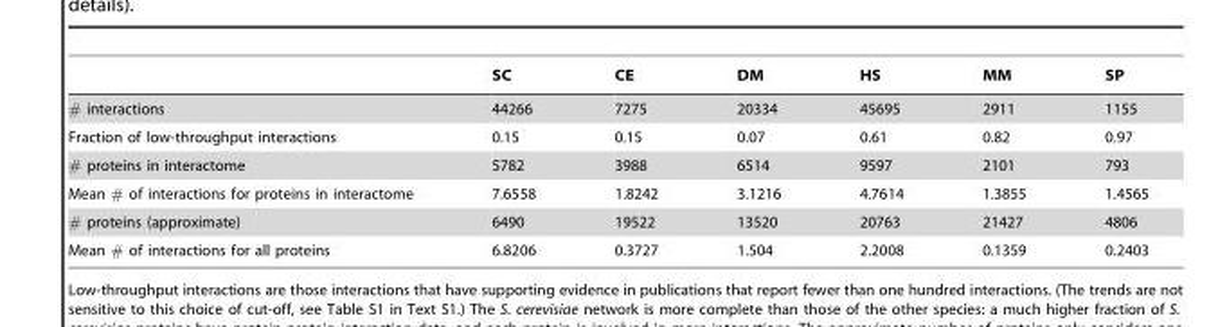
<table><thead><tr><td></td><td>SC</td><td>CE</td><td>DM</td><td>HS</td><td>MM</td><td>SP</td></tr></thead><tbody><tr><td># interactions</td><td>44266</td><td>7275</td><td>20334</td><td>45695</td><td>2911</td><td>1155</td></tr><tr><td>Fraction of low-throughput interactions</td><td>0.15</td><td>0.15</td><td>0.07</td><td>0.61</td><td>0.82</td><td>0.97</td></tr><tr><td># proteins in interactome</td><td>5782</td><td>3988</td><td>6514</td><td>9597</td><td>2101</td><td>793</td></tr><tr><td>Mean # of interactions for proteins in interactome</td><td>7.6558</td><td>1.8242</td><td>3.1216</td><td>4.7614</td><td>1.3855</td><td>1.4565</td></tr><tr><td># proteins (approximate)</td><td>6490</td><td>19522</td><td>13520</td><td>20763</td><td>21427</td><td>4806</td></tr><tr><td>Mean # of interactions for all proteins</td><td>6.8206</td><td>0.3727</td><td>1.504</td><td>2.2008</td><td>0.1359</td><td>0.2403</td></tr></tbody></table>